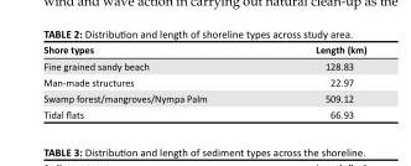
<table><thead><tr><td>Shore types</td><td>Length (km)</td></tr></thead><tbody><tr><td>Fine grained sandy beach</td><td>128.83</td></tr><tr><td>Man-made structures</td><td>22.97</td></tr><tr><td>Swamp forest/mangroves/Nympa Palm</td><td>509.12</td></tr><tr><td>Tidal flats</td><td>66.93</td></tr></tbody></table>